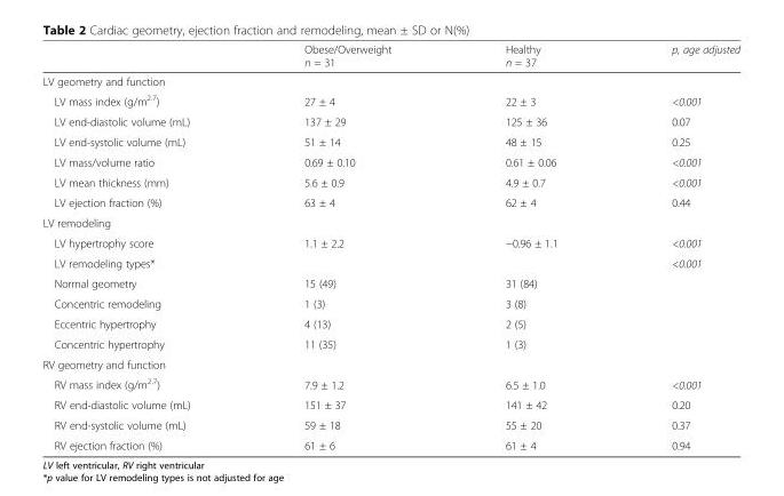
<table><thead><tr><td></td><td>Obese/Overweight n = 31</td><td>Healthy n = 37</td><td>p, age adjusted</td></tr></thead><tbody><tr><td colspan="4">LV geometry and function</td></tr><tr><td>LV mass index (g/m<sup>2.7</sup>)</td><td>27 ± 4</td><td>22 ± 3</td><td>&lt;0.001</td></tr><tr><td>LV end-diastolic volume (mL)</td><td>137 ± 29</td><td>125 ± 36</td><td>0.07</td></tr><tr><td>LV end-systolic volume (mL)</td><td>51 ± 14</td><td>48 ± 15</td><td>0.25</td></tr><tr><td>LV mass/volume ratio</td><td>0.69 ± 0.10</td><td>0.61 ± 0.06</td><td>&lt;0.001</td></tr><tr><td>LV mean thickness (mm)</td><td>5.6 ± 0.9</td><td>4.9 ± 0.7</td><td>&lt;0.001</td></tr><tr><td>LV ejection fraction (%)</td><td>63 ± 4</td><td>62 ± 4</td><td>0.44</td></tr><tr><td colspan="4">LV remodeling</td></tr><tr><td>LV hypertrophy score</td><td>1.1 ± 2.2</td><td>−0.96 ± 1.1</td><td>&lt;0.001</td></tr><tr><td>LV remodeling types*</td><td></td><td></td><td>&lt;0.001</td></tr><tr><td>Normal geometry</td><td>15 (49)</td><td>31 (84)</td><td></td></tr><tr><td>Concentric remodeling</td><td>1 (3)</td><td>3 (8)</td><td></td></tr><tr><td>Eccentric hypertrophy</td><td>4 (13)</td><td>2 (5)</td><td></td></tr><tr><td>Concentric hypertrophy</td><td>11 (35)</td><td>1 (3)</td><td></td></tr><tr><td colspan="4">RV geometry and function</td></tr><tr><td>RV mass index (g/m<sup>2.7</sup>)</td><td>7.9 ± 1.2</td><td>6.5 ± 1.0</td><td>&lt;0.001</td></tr><tr><td>RV end-diastolic volume (mL)</td><td>151 ± 37</td><td>141 ± 42</td><td>0.20</td></tr><tr><td>RV end-systolic volume (mL)</td><td>59 ± 18</td><td>55 ± 20</td><td>0.37</td></tr><tr><td>RV ejection fraction (%)</td><td>61 ± 6</td><td>61 ± 4</td><td>0.94</td></tr></tbody></table>